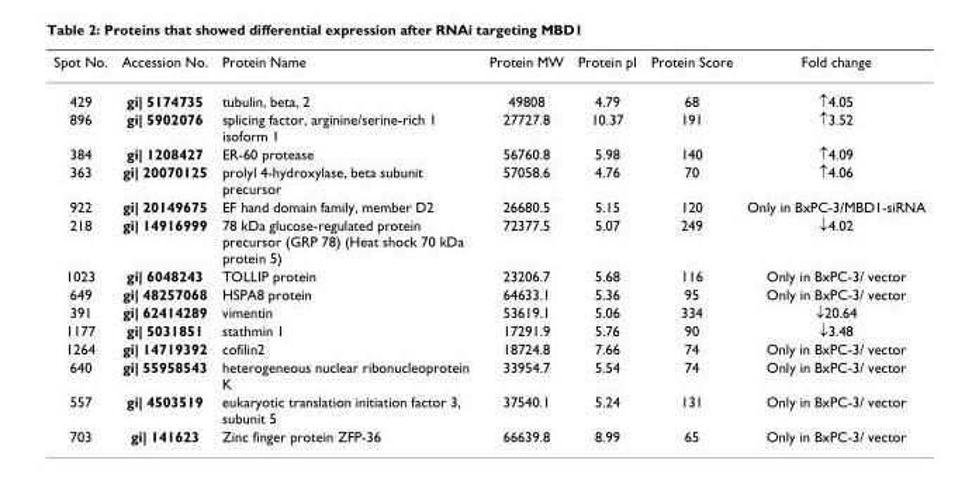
<table><thead><tr><td>Spot No.</td><td>Accession No.</td><td>Protein Name</td><td>Protein MW</td><td>Protein pI</td><td>Protein Score</td><td>Fold change</td></tr></thead><tbody><tr><td>429</td><td>gi| 5174735</td><td>tubulin, beta, 2</td><td>49808</td><td>4.79</td><td>68</td><td>↑4.05</td></tr><tr><td>896</td><td>gi| 5902076</td><td>splicing factor, arginine/serine-rich 1 isoform 1</td><td>27727.8</td><td>10.37</td><td>191</td><td>↑3.52</td></tr><tr><td>384</td><td>gi| 1208427</td><td>ER-60 protease</td><td>56760.8</td><td>5.98</td><td>140</td><td>↑4.09</td></tr><tr><td>363</td><td>gi| 20070125</td><td>prolyl 4-hydroxylase, beta subunit precursor</td><td>57058.6</td><td>4.76</td><td>70</td><td>↑4.06</td></tr><tr><td>922</td><td>gi| 20149675</td><td>EF hand domain family, member D2</td><td>26680.5</td><td>5.15</td><td>120</td><td>Only in BxPC-3/MBD1-siRNA</td></tr><tr><td>218</td><td>gi| 14916999</td><td>78 kDa glucose-regulated protein precursor (GRP 78) (Heat shock 70 kDa protein 5)</td><td>72377.5</td><td>5.07</td><td>249</td><td>↓4.02</td></tr><tr><td>1023</td><td>gi| 6048243</td><td>TOLLIP protein</td><td>23206.7</td><td>5.68</td><td>116</td><td>Only in BxPC-3/ vector</td></tr><tr><td>649</td><td>gi| 48257068</td><td>HSPA8 protein</td><td>64633.1</td><td>5.36</td><td>95</td><td>Only in BxPC-3/ vector</td></tr><tr><td>391</td><td>gi| 62414289</td><td>vimentin</td><td>53619.1</td><td>5.06</td><td>334</td><td>↓20.64</td></tr><tr><td>1177</td><td>gi| 5031851</td><td>stathmin 1</td><td>17291.9</td><td>5.76</td><td>90</td><td>↓3.48</td></tr><tr><td>1264</td><td>gi| 14719392</td><td>cofilin2</td><td>18724.8</td><td>7.66</td><td>74</td><td>Only in BxPC-3/ vector</td></tr><tr><td>640</td><td>gi| 55958543</td><td>heterogeneous nuclear ribonucleoprotein K</td><td>33954.7</td><td>5.54</td><td>74</td><td>Only in BxPC-3/ vector</td></tr><tr><td>557</td><td>gi| 4503519</td><td>eukaryotic translation initiation factor 3, subunit 5</td><td>37540.1</td><td>5.24</td><td>131</td><td>Only in BxPC-3/ vector</td></tr><tr><td>703</td><td>gi| 141623</td><td>Zinc finger protein ZFP-36</td><td>66639.8</td><td>8.99</td><td>65</td><td>Only in BxPC-3/ vector</td></tr></tbody></table>